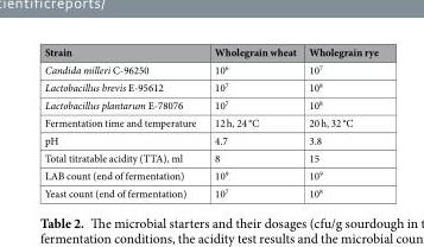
<table><thead><tr><td>Strain</td><td>Wholegrain wheat</td><td>Wholegrain rye</td></tr></thead><tbody><tr><td>Candida milleri C-96250</td><td>10<sup>6</sup></td><td>10<sup>7</sup></td></tr><tr><td>Lactobacillus brevis E-95612</td><td>10<sup>7</sup></td><td>10<sup>8</sup></td></tr><tr><td>Lactobacillus plantarum E-78076</td><td>10<sup>7</sup></td><td>10<sup>8</sup></td></tr><tr><td>Fermentation time and temperature</td><td>12 h, 24 °C</td><td>20 h, 32 °C</td></tr><tr><td>pH</td><td>4.7</td><td>3.8</td></tr><tr><td>Total titratable acidity (TTA), ml</td><td>8</td><td>15</td></tr><tr><td>LAB count (end of fermentation)</td><td>10<sup>9</sup></td><td>10<sup>9</sup></td></tr><tr><td>Yeast count (end of fermentation)</td><td>10<sup>7</sup></td><td>10<sup>8</sup></td></tr></tbody></table>